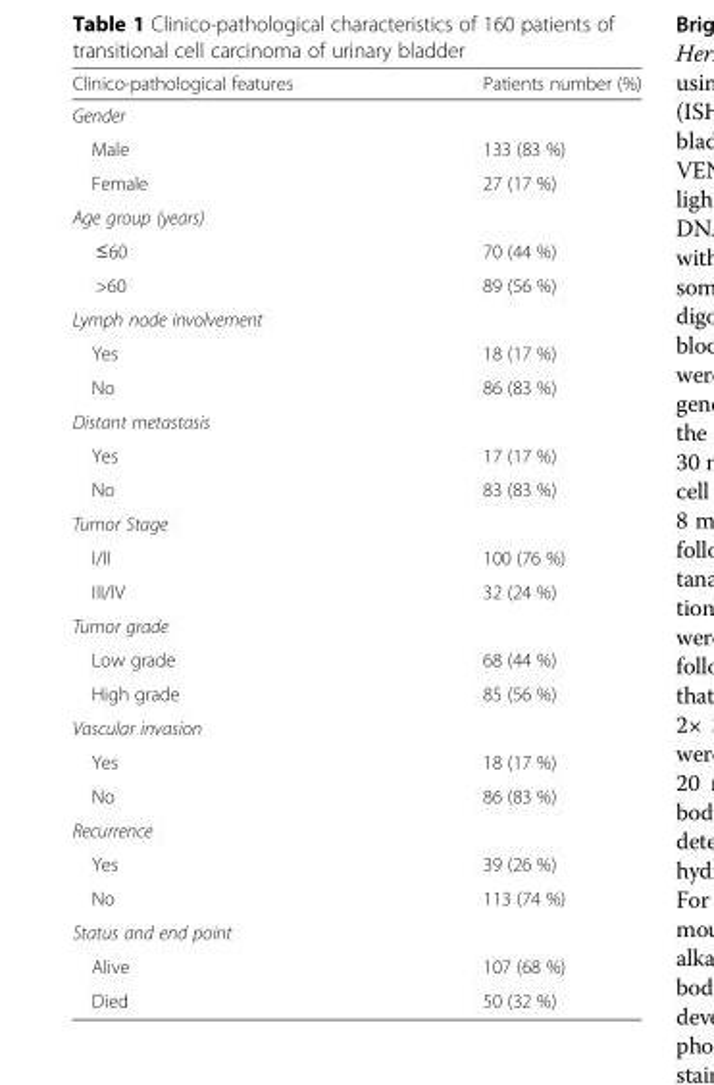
<table><thead><tr><td>Clinico-pathological features</td><td>Patients number (%)</td></tr></thead><tbody><tr><td colspan="2">Gender</td></tr><tr><td>Male</td><td>133 (83 %)</td></tr><tr><td>Female</td><td>27 (17 %)</td></tr><tr><td colspan="2">Age group (years)</td></tr><tr><td>≤60</td><td>70 (44 %)</td></tr><tr><td>&gt;60</td><td>89 (56 %)</td></tr><tr><td colspan="2">Lymph node involvement</td></tr><tr><td>Yes</td><td>18 (17 %)</td></tr><tr><td>No</td><td>86 (83 %)</td></tr><tr><td colspan="2">Distant metastasis</td></tr><tr><td>Yes</td><td>17 (17 %)</td></tr><tr><td>No</td><td>83 (83 %)</td></tr><tr><td colspan="2">Tumor Stage</td></tr><tr><td>I/II</td><td>100 (76 %)</td></tr><tr><td>III/IV</td><td>32 (24 %)</td></tr><tr><td colspan="2">Tumor grade</td></tr><tr><td>Low grade</td><td>68 (44 %)</td></tr><tr><td>High grade</td><td>85 (56 %)</td></tr><tr><td colspan="2">Vascular invasion</td></tr><tr><td>Yes</td><td>18 (17 %)</td></tr><tr><td>No</td><td>86 (83 %)</td></tr><tr><td colspan="2">Recurrence</td></tr><tr><td>Yes</td><td>39 (26 %)</td></tr><tr><td>No</td><td>113 (74 %)</td></tr><tr><td colspan="2">Status and end point</td></tr><tr><td>Alive</td><td>107 (68 %)</td></tr><tr><td>Died</td><td>50 (32 %)</td></tr></tbody></table>